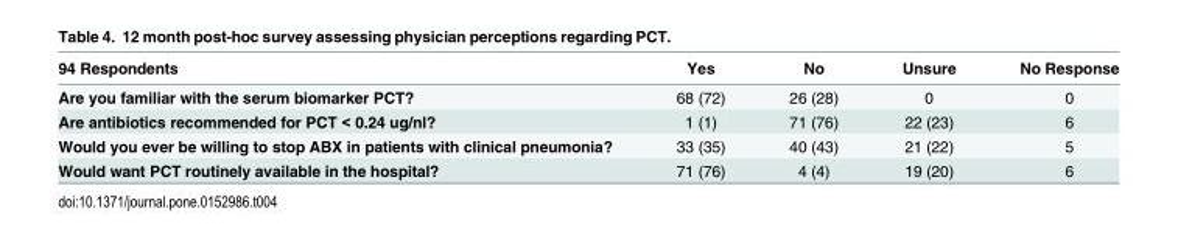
<table><thead><tr><td>94 Respondents</td><td>Yes</td><td>No</td><td>Unsure</td><td>No Response</td></tr></thead><tbody><tr><td>Are you familiar with the serum biomarker PCT?</td><td>68 (72)</td><td>26 (28)</td><td>0</td><td>0</td></tr><tr><td>Are antibiotics recommended for PCT &lt; 0.24 ug/nl?</td><td>1 (1)</td><td>71 (76)</td><td>22 (23)</td><td>6</td></tr><tr><td>Would you ever be willing to stop ABX in patients with clinical pneumonia?</td><td>33 (35)</td><td>40 (43)</td><td>21 (22)</td><td>5</td></tr><tr><td>Would want PCT routinely available in the hospital?</td><td>71 (76)</td><td>4 (4)</td><td>19 (20)</td><td>6</td></tr></tbody></table>